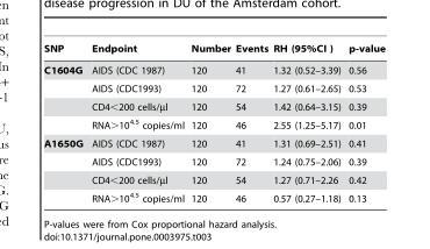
<table><thead><tr><td>SNP</td><td>Endpoint</td><td>Number</td><td>Events</td><td>RH (95%CI )</td><td>p-value</td></tr></thead><tbody><tr><td rowspan="4">C1604G</td><td>AIDS (CDC 1987)</td><td>120</td><td>41</td><td>1.32 (0.52–3.39)</td><td>0.56</td></tr><tr><td>AIDS (CDC1993)</td><td>120</td><td>72</td><td>1.27 (0.61–2.65)</td><td>0.53</td></tr><tr><td>CD4&lt;200 cells/µl</td><td>120</td><td>54</td><td>1.42 (0.64–3.15)</td><td>0.39</td></tr><tr><td>RNA&gt;10<sup>4.5</sup> copies/ml</td><td>120</td><td>46</td><td>2.55 (1.25–5.17)</td><td>0.01</td></tr><tr><td rowspan="4">A1650G</td><td>AIDS (CDC 1987)</td><td>120</td><td>41</td><td>1.31 (0.69–2.51)</td><td>0.41</td></tr><tr><td>AIDS (CDC1993)</td><td>120</td><td>72</td><td>1.24 (0.75–2.06)</td><td>0.39</td></tr><tr><td>CD4&lt;200 cells/µl</td><td>120</td><td>54</td><td>1.27 (0.71–2.26</td><td>0.42</td></tr><tr><td>RNA&gt;10<sup>4.5</sup> copies/ml</td><td>120</td><td>46</td><td>0.57 (0.27–1.18)</td><td>0.13</td></tr></tbody></table>